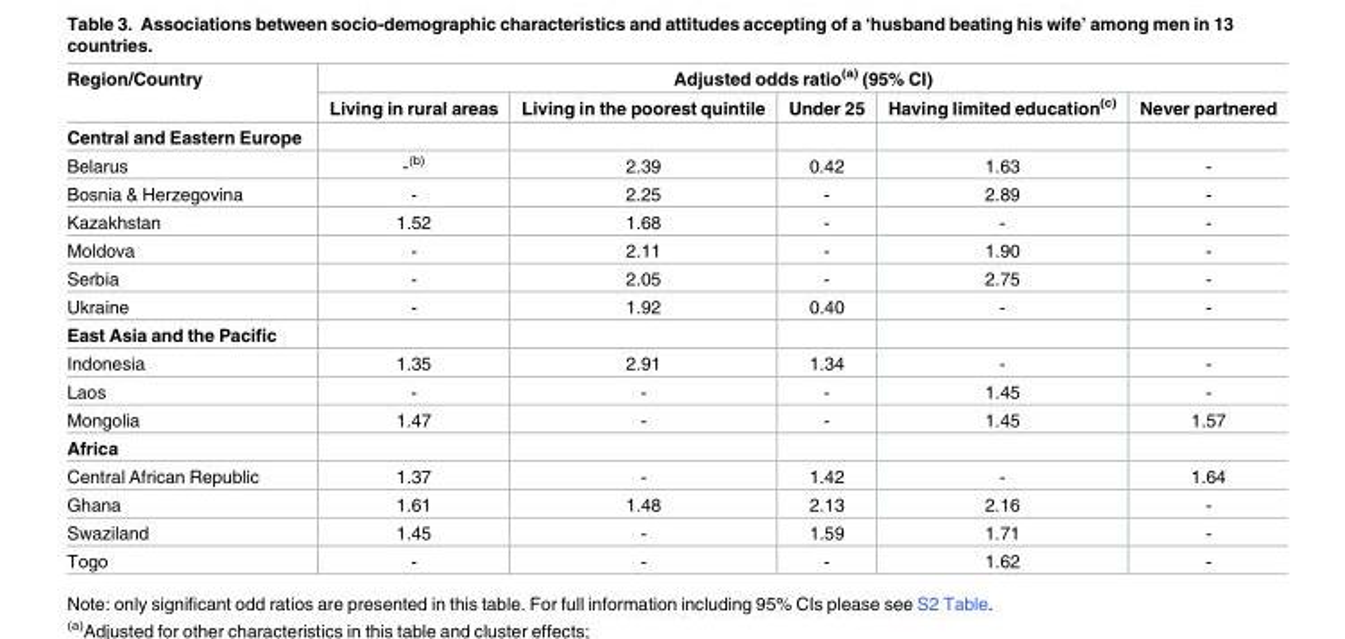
<table><thead><tr><td rowspan="2">Region/Country</td><td colspan="5">Adjusted odds ratio<sup>(a)</sup> (95% CI)</td></tr><tr><td>Living in rural areas</td><td>Living in the poorest quintile</td><td>Under 25</td><td>Having limited education<sup>(c)</sup></td><td>Never partnered</td></tr></thead><tbody><tr><td colspan="6">Central and Eastern Europe</td></tr><tr><td>Belarus</td><td>-<sup>(b)</sup></td><td>2.39</td><td>0.42</td><td>1.63</td><td>-</td></tr><tr><td>Bosnia &amp; Herzegovina</td><td>-</td><td>2.25</td><td>-</td><td>2.89</td><td>-</td></tr><tr><td>Kazakhstan</td><td>1.52</td><td>1.68</td><td>-</td><td>-</td><td>-</td></tr><tr><td>Moldova</td><td>-</td><td>2.11</td><td>-</td><td>1.90</td><td>-</td></tr><tr><td>Serbia</td><td>-</td><td>2.05</td><td>-</td><td>2.75</td><td>-</td></tr><tr><td>Ukraine</td><td>-</td><td>1.92</td><td>0.40</td><td>-</td><td>-</td></tr><tr><td colspan="6">East Asia and the Pacific</td></tr><tr><td>Indonesia</td><td>1.35</td><td>2.91</td><td>1.34</td><td>-</td><td>-</td></tr><tr><td>Laos</td><td>-</td><td>-</td><td>-</td><td>1.45</td><td>-</td></tr><tr><td>Mongolia</td><td>1.47</td><td>-</td><td>-</td><td>1.45</td><td>1.57</td></tr><tr><td colspan="6">Africa</td></tr><tr><td>Central African Republic</td><td>1.37</td><td>-</td><td>1.42</td><td>-</td><td>1.64</td></tr><tr><td>Ghana</td><td>1.61</td><td>1.48</td><td>2.13</td><td>2.16</td><td>-</td></tr><tr><td>Swaziland</td><td>1.45</td><td>-</td><td>1.59</td><td>1.71</td><td>-</td></tr><tr><td>Togo</td><td>-</td><td>-</td><td>-</td><td>1.62</td><td>-</td></tr></tbody></table>